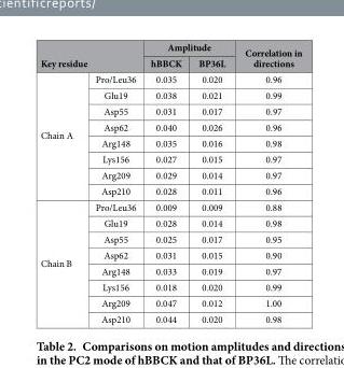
<table><thead><tr><td></td><td></td><td colspan="2">Amplitude</td><td rowspan="2">Correlation in directions</td></tr><tr><td colspan="2">Key residue</td><td>hBBCK</td><td>BP36L</td></tr></thead><tbody><tr><td rowspan="8">Chain A</td><td>Pro/Leu36</td><td>0.035</td><td>0.020</td><td>0.96</td></tr><tr><td>Glu19</td><td>0.038</td><td>0.021</td><td>0.99</td></tr><tr><td>Asp55</td><td>0.031</td><td>0.017</td><td>0.97</td></tr><tr><td>Asp62</td><td>0.040</td><td>0.026</td><td>0.96</td></tr><tr><td>Arg148</td><td>0.035</td><td>0.016</td><td>0.98</td></tr><tr><td>Lys156</td><td>0.027</td><td>0.015</td><td>0.97</td></tr><tr><td>Arg209</td><td>0.029</td><td>0.014</td><td>0.97</td></tr><tr><td>Asp210</td><td>0.028</td><td>0.011</td><td>0.96</td></tr><tr><td rowspan="8">Chain B</td><td>Pro/Leu36</td><td>0.009</td><td>0.009</td><td>0.88</td></tr><tr><td>Glu19</td><td>0.028</td><td>0.014</td><td>0.98</td></tr><tr><td>Asp55</td><td>0.025</td><td>0.017</td><td>0.95</td></tr><tr><td>Asp62</td><td>0.031</td><td>0.015</td><td>0.90</td></tr><tr><td>Arg148</td><td>0.033</td><td>0.019</td><td>0.97</td></tr><tr><td>Lys156</td><td>0.018</td><td>0.020</td><td>0.99</td></tr><tr><td>Arg209</td><td>0.047</td><td>0.012</td><td>1.00</td></tr><tr><td>Asp210</td><td>0.044</td><td>0.020</td><td>0.98</td></tr></tbody></table>